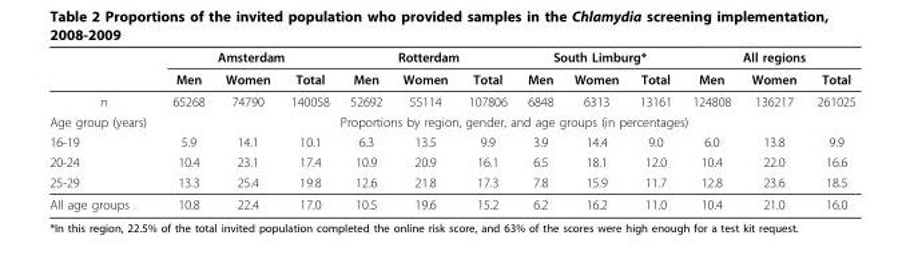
<table><thead><tr><td rowspan="2"></td><td colspan="3">Amsterdam</td><td colspan="3">Rotterdam</td><td colspan="3">South Limburg*</td><td colspan="3">All regions</td></tr><tr><td>Men</td><td>Women</td><td>Total</td><td>Men</td><td>Women</td><td>Total</td><td>Men</td><td>Women</td><td>Total</td><td>Men</td><td>Women</td><td>Total</td></tr></thead><tbody><tr><td>n</td><td>65268</td><td>74790</td><td>140058</td><td>52692</td><td>55114</td><td>107806</td><td>6848</td><td>6313</td><td>13161</td><td>124808</td><td>136217</td><td>261025</td></tr><tr><td>Age group (years)</td><td colspan="12">Proportions by region, gender, and age groups (in percentages)</td></tr><tr><td>16-19</td><td>5.9</td><td>14.1</td><td>10.1</td><td>6.3</td><td>13.5</td><td>9.9</td><td>3.9</td><td>14.4</td><td>9.0</td><td>6.0</td><td>13.8</td><td>9.9</td></tr><tr><td>20-24</td><td>10.4</td><td>23.1</td><td>17.4</td><td>10.9</td><td>20.9</td><td>16.1</td><td>6.5</td><td>18.1</td><td>12.0</td><td>10.4</td><td>22.0</td><td>16.6</td></tr><tr><td>25-29</td><td>13.3</td><td>25.4</td><td>19.8</td><td>12.6</td><td>21.8</td><td>17.3</td><td>7.8</td><td>15.9</td><td>11.7</td><td>12.8</td><td>23.6</td><td>18.5</td></tr><tr><td>All age groups</td><td>10.8</td><td>22.4</td><td>17.0</td><td>10.5</td><td>19.6</td><td>15.2</td><td>6.2</td><td>16.2</td><td>11.0</td><td>10.4</td><td>21.0</td><td>16.0</td></tr></tbody></table>